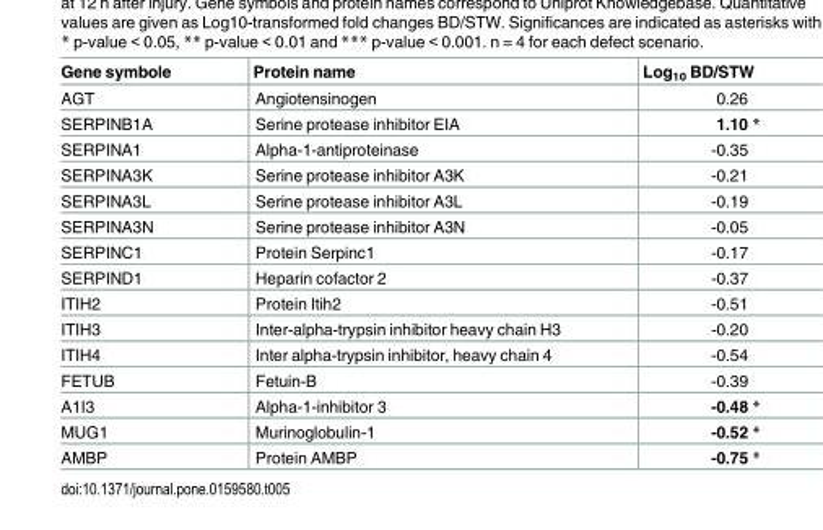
<table><thead><tr><td>Gene symbole</td><td>Protein name</td><td>Log<sub>10</sub> BD/STW</td></tr></thead><tbody><tr><td>AGT</td><td>Angiotensinogen</td><td>0.26</td></tr><tr><td>SERPINB1A</td><td>Serine protease inhibitor EIA</td><td>1.10 *</td></tr><tr><td>SERPINA1</td><td>Alpha-1-antiproteinase</td><td>-0.35</td></tr><tr><td>SERPINA3K</td><td>Serine protease inhibitor A3K</td><td>-0.21</td></tr><tr><td>SERPINA3L</td><td>Serine protease inhibitor A3L</td><td>-0.19</td></tr><tr><td>SERPINA3N</td><td>Serine protease inhibitor A3N</td><td>-0.05</td></tr><tr><td>SERPINC1</td><td>Protein Serpinc1</td><td>-0.17</td></tr><tr><td>SERPIND1</td><td>Heparin cofactor 2</td><td>-0.37</td></tr><tr><td>ITIH2</td><td>Protein Itih2</td><td>-0.51</td></tr><tr><td>ITIH3</td><td>Inter-alpha-trypsin inhibitor heavy chain H3</td><td>-0.20</td></tr><tr><td>ITIH4</td><td>Inter alpha-trypsin inhibitor, heavy chain 4</td><td>-0.54</td></tr><tr><td>FETUB</td><td>Fetuin-B</td><td>-0.39</td></tr><tr><td>A1I3</td><td>Alpha-1-inhibitor 3</td><td>-0.48 *</td></tr><tr><td>MUG1</td><td>Murinoglobulin-1</td><td>-0.52 *</td></tr><tr><td>AMBP</td><td>Protein AMBP</td><td>-0.75 *</td></tr></tbody></table>